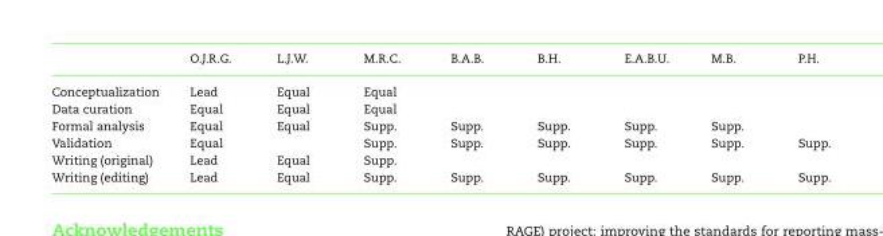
<table><thead><tr><td></td><td>O.J.R.G.</td><td>L.J.W.</td><td>M.R.C.</td><td>B.A.B.</td><td>B.H.</td><td>E.A.B.U.</td><td>M.B.</td><td>P.H.</td></tr></thead><tbody><tr><td>Conceptualization</td><td>Lead</td><td>Equal</td><td>Equal</td><td></td><td></td><td></td><td></td><td></td></tr><tr><td>Data curation</td><td>Equal</td><td>Equal</td><td>Equal</td><td></td><td></td><td></td><td></td><td></td></tr><tr><td>Formal analysis</td><td>Equal</td><td>Equal</td><td>Supp.</td><td>Supp.</td><td>Supp.</td><td>Supp.</td><td>Supp.</td><td></td></tr><tr><td>Validation</td><td>Equal</td><td></td><td>Supp.</td><td>Supp.</td><td>Supp.</td><td>Supp.</td><td>Supp.</td><td>Supp.</td></tr><tr><td>Writing (original)</td><td>Lead</td><td>Equal</td><td>Supp.</td><td></td><td></td><td></td><td></td><td></td></tr><tr><td>Writing (editing)</td><td>Lead</td><td>Equal</td><td>Supp.</td><td>Supp.</td><td>Supp.</td><td>Supp.</td><td>Supp.</td><td>Supp.</td></tr></tbody></table>